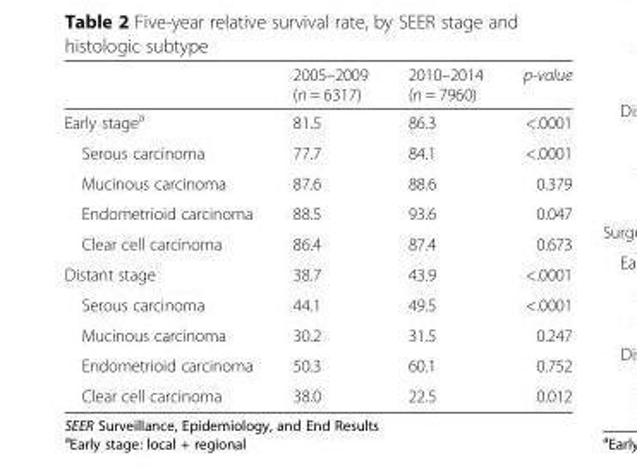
<table><thead><tr><td></td><td>2005–2009 (n = 6317)</td><td>2010–2014 (n = 7960)</td><td>p-value</td></tr></thead><tbody><tr><td>Early stage<sup>a</sup></td><td>81.5</td><td>86.3</td><td>&lt;.0001</td></tr><tr><td>Serous carcinoma</td><td>77.7</td><td>84.1</td><td>&lt;.0001</td></tr><tr><td>Mucinous carcinoma</td><td>87.6</td><td>88.6</td><td>0.379</td></tr><tr><td>Endometrioid carcinoma</td><td>88.5</td><td>93.6</td><td>0.047</td></tr><tr><td>Clear cell carcinoma</td><td>86.4</td><td>87.4</td><td>0.673</td></tr><tr><td>Distant stage</td><td>38.7</td><td>43.9</td><td>&lt;.0001</td></tr><tr><td>Serous carcinoma</td><td>44.1</td><td>49.5</td><td>&lt;.0001</td></tr><tr><td>Mucinous carcinoma</td><td>30.2</td><td>31.5</td><td>0.247</td></tr><tr><td>Endometrioid carcinoma</td><td>50.3</td><td>60.1</td><td>0.752</td></tr><tr><td>Clear cell carcinoma</td><td>38.0</td><td>22.5</td><td>0.012</td></tr></tbody></table>